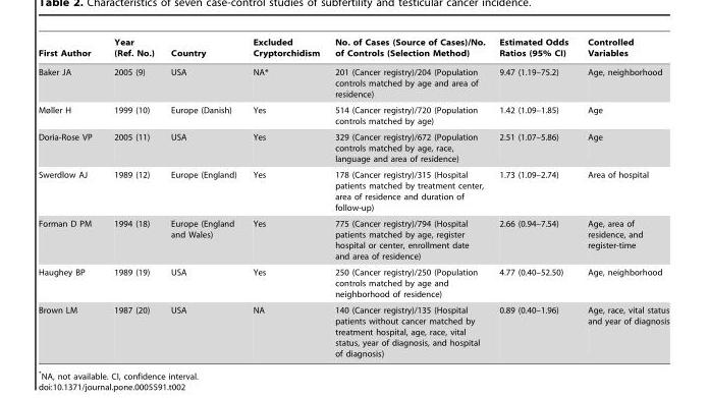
<table><thead><tr><td>First Author</td><td>Year (Ref. No.)</td><td>Country</td><td>Excluded Cryptorchidism</td><td>No. of Cases (Source of Cases)/No. of Controls (Selection Method)</td><td>Estimated Odds Ratios (95% CI)</td><td>Controlled Variables</td></tr></thead><tbody><tr><td>Baker JA</td><td>2005 (9)</td><td>USA</td><td>NA*</td><td>201 (Cancer registry)/204 (Population controls matched by age and area of residence)</td><td>9.47 (1.19–75.2)</td><td>Age, neighborhood</td></tr><tr><td>Møller H</td><td>1999 (10)</td><td>Europe (Danish)</td><td>Yes</td><td>514 (Cancer registry)/720 (Population controls matched by age)</td><td>1.42 (1.09–1.85)</td><td>Age</td></tr><tr><td>Doria-Rose VP</td><td>2005 (11)</td><td>USA</td><td>Yes</td><td>329 (Cancer registry)/672 (Population controls matched by age, race, language and area of residence)</td><td>2.51 (1.07–5.86)</td><td>Age</td></tr><tr><td>Swerdlow AJ</td><td>1989 (12)</td><td>Europe (England)</td><td>Yes</td><td>178 (Cancer registry)/315 (Hospital patients matched by treatment center, area of residence and duration of follow-up)</td><td>1.73 (1.09–2.74)</td><td>Area of hospital</td></tr><tr><td>Forman D PM</td><td>1994 (18)</td><td>Europe (England and Wales)</td><td>Yes</td><td>775 (Cancer registry)/794 (Hospital patients matched by age, register hospital or center, enrollment date and area of residence)</td><td>2.66 (0.94–7.54)</td><td>Age, area of residence, and register-time</td></tr><tr><td>Haughey BP</td><td>1989 (19)</td><td>USA</td><td>Yes</td><td>250 (Cancer registry)/250 (Population controls matched by age and neighborhood of residence)</td><td>4.77 (0.40–52.50)</td><td>Age, neighborhood</td></tr><tr><td>Brown LM</td><td>1987 (20)</td><td>USA</td><td>NA</td><td>140 (Cancer registry)/135 (Hospital patients without cancer matched by treatment hospital, age, race, vital status, year of diagnosis, and hospital of diagnosis)</td><td>0.89 (0.40–1.96)</td><td>Age, race, vital status and year of diagnosis</td></tr></tbody></table>